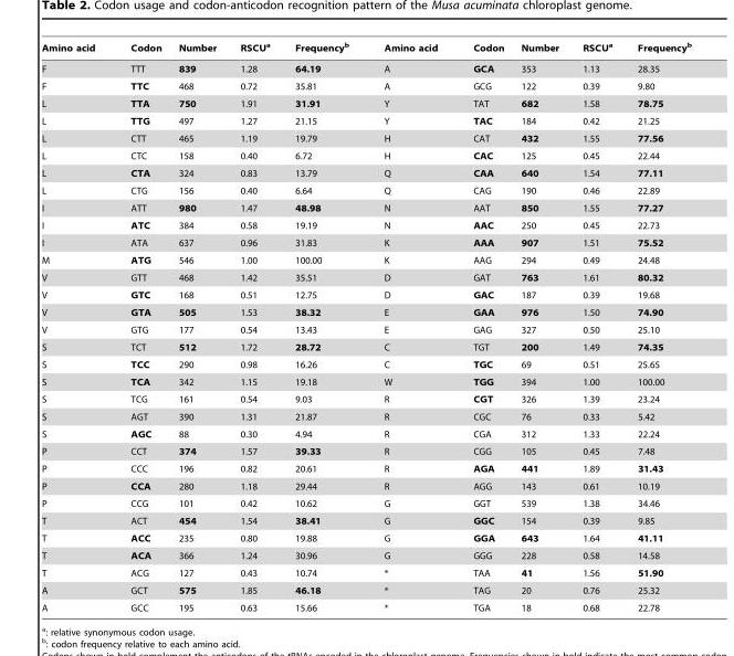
<table><thead><tr><td>Amino acid</td><td>Codon</td><td>Number</td><td>RSCU<sup>a</sup></td><td>Frequency<sup>b</sup></td><td>Amino acid</td><td>Codon</td><td>Number</td><td>RSCU<sup>a</sup></td><td>Frequency<sup>b</sup></td></tr></thead><tbody><tr><td>F</td><td>TTT</td><td>839</td><td>1.28</td><td>64.19</td><td>A</td><td>GCA</td><td>353</td><td>1.13</td><td>28.35</td></tr><tr><td>F</td><td>TTC</td><td>468</td><td>0.72</td><td>35.81</td><td>A</td><td>GCG</td><td>122</td><td>0.39</td><td>9.80</td></tr><tr><td>L</td><td>TTA</td><td>750</td><td>1.91</td><td>31.91</td><td>Y</td><td>TAT</td><td>682</td><td>1.58</td><td>78.75</td></tr><tr><td>L</td><td>TTG</td><td>497</td><td>1.27</td><td>21.15</td><td>Y</td><td>TAC</td><td>184</td><td>0.42</td><td>21.25</td></tr><tr><td>L</td><td>CTT</td><td>465</td><td>1.19</td><td>19.79</td><td>H</td><td>CAT</td><td>432</td><td>1.55</td><td>77.56</td></tr><tr><td>L</td><td>CTC</td><td>158</td><td>0.40</td><td>6.72</td><td>H</td><td>CAC</td><td>125</td><td>0.45</td><td>22.44</td></tr><tr><td>L</td><td>CTA</td><td>324</td><td>0.83</td><td>13.79</td><td>Q</td><td>CAA</td><td>640</td><td>1.54</td><td>77.11</td></tr><tr><td>L</td><td>CTG</td><td>156</td><td>0.40</td><td>6.64</td><td>Q</td><td>CAG</td><td>190</td><td>0.46</td><td>22.89</td></tr><tr><td>I</td><td>ATT</td><td>980</td><td>1.47</td><td>48.98</td><td>N</td><td>AAT</td><td>850</td><td>1.55</td><td>77.27</td></tr><tr><td>I</td><td>ATC</td><td>384</td><td>0.58</td><td>19.19</td><td>N</td><td>AAC</td><td>250</td><td>0.45</td><td>22.73</td></tr><tr><td>I</td><td>ATA</td><td>637</td><td>0.96</td><td>31.83</td><td>K</td><td>AAA</td><td>907</td><td>1.51</td><td>75.52</td></tr><tr><td>M</td><td>ATG</td><td>546</td><td>1.00</td><td>100.00</td><td>K</td><td>AAG</td><td>294</td><td>0.49</td><td>24.48</td></tr><tr><td>V</td><td>GTT</td><td>468</td><td>1.42</td><td>35.51</td><td>D</td><td>GAT</td><td>763</td><td>1.61</td><td>80.32</td></tr><tr><td>V</td><td>GTC</td><td>168</td><td>0.51</td><td>12.75</td><td>D</td><td>GAC</td><td>187</td><td>0.39</td><td>19.68</td></tr><tr><td>V</td><td>GTA</td><td>505</td><td>1.53</td><td>38.32</td><td>E</td><td>GAA</td><td>976</td><td>1.50</td><td>74.90</td></tr><tr><td>V</td><td>GTG</td><td>177</td><td>0.54</td><td>13.43</td><td>E</td><td>GAG</td><td>327</td><td>0.50</td><td>25.10</td></tr><tr><td>S</td><td>TCT</td><td>512</td><td>1.72</td><td>28.72</td><td>C</td><td>TGT</td><td>200</td><td>1.49</td><td>74.35</td></tr><tr><td>S</td><td>TCC</td><td>290</td><td>0.98</td><td>16.26</td><td>C</td><td>TGC</td><td>69</td><td>0.51</td><td>25.65</td></tr><tr><td>S</td><td>TCA</td><td>342</td><td>1.15</td><td>19.18</td><td>W</td><td>TGG</td><td>394</td><td>1.00</td><td>100.00</td></tr><tr><td>S</td><td>TCG</td><td>161</td><td>0.54</td><td>9.03</td><td>R</td><td>CGT</td><td>326</td><td>1.39</td><td>23.24</td></tr><tr><td>S</td><td>AGT</td><td>390</td><td>1.31</td><td>21.87</td><td>R</td><td>CGC</td><td>76</td><td>0.33</td><td>5.42</td></tr><tr><td>S</td><td>AGC</td><td>88</td><td>0.30</td><td>4.94</td><td>R</td><td>CGA</td><td>312</td><td>1.33</td><td>22.24</td></tr><tr><td>P</td><td>CCT</td><td>374</td><td>1.57</td><td>39.33</td><td>R</td><td>CGG</td><td>105</td><td>0.45</td><td>7.48</td></tr><tr><td>P</td><td>CCC</td><td>196</td><td>0.82</td><td>20.61</td><td>R</td><td>AGA</td><td>441</td><td>1.89</td><td>31.43</td></tr><tr><td>P</td><td>CCA</td><td>280</td><td>1.18</td><td>29.44</td><td>R</td><td>AGG</td><td>143</td><td>0.61</td><td>10.19</td></tr><tr><td>P</td><td>CCG</td><td>101</td><td>0.42</td><td>10.62</td><td>G</td><td>GGT</td><td>539</td><td>1.38</td><td>34.46</td></tr><tr><td>T</td><td>ACT</td><td>454</td><td>1.54</td><td>38.41</td><td>G</td><td>GGC</td><td>154</td><td>0.39</td><td>9.85</td></tr><tr><td>T</td><td>ACC</td><td>235</td><td>0.80</td><td>19.88</td><td>G</td><td>GGA</td><td>643</td><td>1.64</td><td>41.11</td></tr><tr><td>T</td><td>ACA</td><td>366</td><td>1.24</td><td>30.96</td><td>G</td><td>GGG</td><td>228</td><td>0.58</td><td>14.58</td></tr><tr><td>T</td><td>ACG</td><td>127</td><td>0.43</td><td>10.74</td><td>*</td><td>TAA</td><td>41</td><td>1.56</td><td>51.90</td></tr><tr><td>A</td><td>GCT</td><td>575</td><td>1.85</td><td>46.18</td><td>*</td><td>TAG</td><td>20</td><td>0.76</td><td>25.32</td></tr><tr><td>A</td><td>GCC</td><td>195</td><td>0.63</td><td>15.66</td><td>*</td><td>TGA</td><td>18</td><td>0.68</td><td>22.78</td></tr></tbody></table>